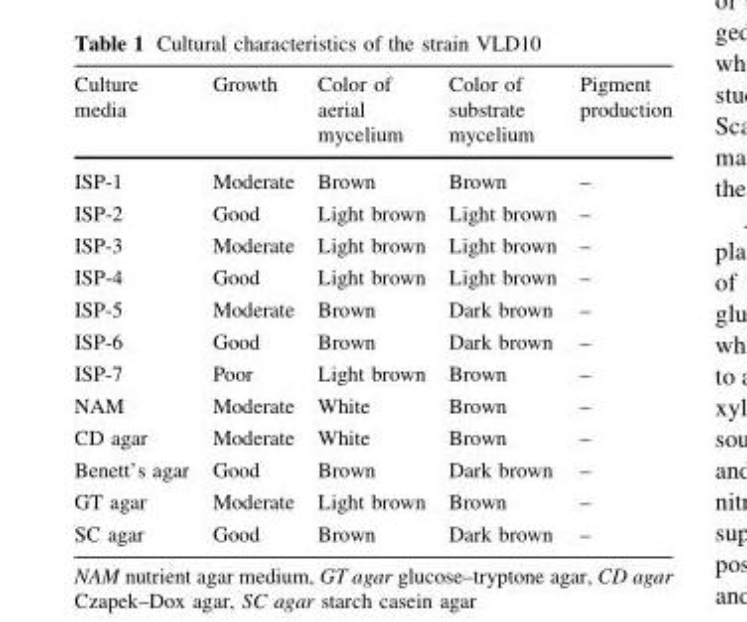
<table><thead><tr><td>Culture media</td><td>Growth</td><td>Color of aerial mycelium</td><td>Color of substrate mycelium</td><td>Pigment production</td></tr></thead><tbody><tr><td>ISP-1</td><td>Moderate</td><td>Brown</td><td>Brown</td><td>–</td></tr><tr><td>ISP-2</td><td>Good</td><td>Light brown</td><td>Light brown</td><td>–</td></tr><tr><td>ISP-3</td><td>Moderate</td><td>Light brown</td><td>Light brown</td><td>–</td></tr><tr><td>ISP-4</td><td>Good</td><td>Light brown</td><td>Light brown</td><td>–</td></tr><tr><td>ISP-5</td><td>Moderate</td><td>Brown</td><td>Dark brown</td><td>–</td></tr><tr><td>ISP-6</td><td>Good</td><td>Brown</td><td>Dark brown</td><td>–</td></tr><tr><td>ISP-7</td><td>Poor</td><td>Light brown</td><td>Brown</td><td>–</td></tr><tr><td>NAM</td><td>Moderate</td><td>White</td><td>Brown</td><td>–</td></tr><tr><td>CD agar</td><td>Moderate</td><td>White</td><td>Brown</td><td>–</td></tr><tr><td>Benett’s agar</td><td>Good</td><td>Brown</td><td>Dark brown</td><td>–</td></tr><tr><td>GT agar</td><td>Moderate</td><td>Light brown</td><td>Brown</td><td>–</td></tr><tr><td>SC agar</td><td>Good</td><td>Brown</td><td>Dark brown</td><td>–</td></tr></tbody></table>